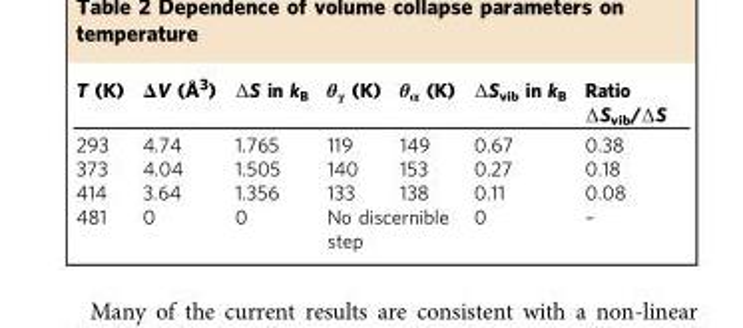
<table><thead><tr><td>T (K)</td><td>ΔV (Å<sup>3</sup>)</td><td>ΔS in kB</td><td>θ<sub>γ</sub> (K)</td><td>θ<sub>α</sub> (K)</td><td>ΔSvib in kB</td><td>Ratio ΔSvib/ΔS</td></tr></thead><tbody><tr><td>293</td><td>4.74</td><td>1.765</td><td>119</td><td>149</td><td>0.67</td><td>0.38</td></tr><tr><td>373</td><td>4.04</td><td>1.505</td><td>140</td><td>153</td><td>0.27</td><td>0.18</td></tr><tr><td>414</td><td>3.64</td><td>1.356</td><td>133</td><td>138</td><td>0.11</td><td>0.08</td></tr><tr><td>481</td><td>0</td><td>0</td><td colspan="2">No discernible step</td><td>0</td><td>–</td></tr></tbody></table>